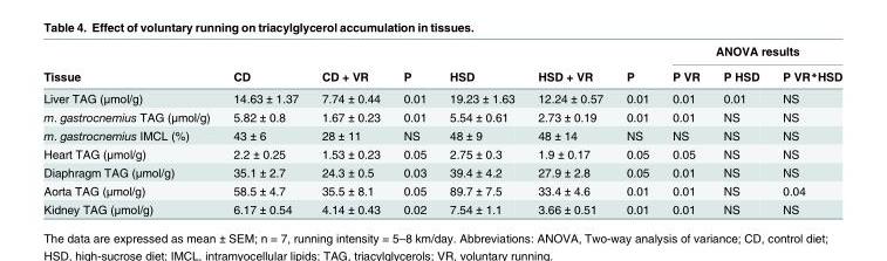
<table><thead><tr><td rowspan="2">Tissue</td><td rowspan="2">CD</td><td rowspan="2">CD + VR</td><td rowspan="2">P</td><td rowspan="2">HSD</td><td rowspan="2">HSD + VR</td><td rowspan="2">P</td><td colspan="3">ANOVA results</td></tr><tr><td>P VR</td><td>P HSD</td><td>P VR*HSD</td></tr></thead><tbody><tr><td>Liver TAG (µmol/g)</td><td>14.63 ± 1.37</td><td>7.74 ± 0.44</td><td>0.01</td><td>19.23 ± 1.63</td><td>12.24 ± 0.57</td><td>0.01</td><td>0.01</td><td>0.01</td><td>NS</td></tr><tr><td>m. gastrocnemius TAG (µmol/g)</td><td>5.82 ± 0.8</td><td>1.67 ± 0.23</td><td>0.01</td><td>5.54 ± 0.61</td><td>2.73 ± 0.19</td><td>0.01</td><td>0.01</td><td>NS</td><td>NS</td></tr><tr><td>m. gastrocnemius IMCL (%)</td><td>43 ± 6</td><td>28 ± 11</td><td>NS</td><td>48 ± 9</td><td>48 ± 14</td><td>NS</td><td>NS</td><td>NS</td><td>NS</td></tr><tr><td>Heart TAG (µmol/g)</td><td>2.2 ± 0.25</td><td>1.53 ± 0.23</td><td>0.05</td><td>2.75 ± 0.3</td><td>1.9 ± 0.17</td><td>0.05</td><td>0.05</td><td>NS</td><td>NS</td></tr><tr><td>Diaphragm TAG (µmol/g)</td><td>35.1 ± 2.7</td><td>24.3 ± 0.5</td><td>0.03</td><td>39.4 ± 4.2</td><td>27.9 ± 2.8</td><td>0.05</td><td>0.01</td><td>NS</td><td>NS</td></tr><tr><td>Aorta TAG (µmol/g)</td><td>58.5 ± 4.7</td><td>35.5 ± 8.1</td><td>0.05</td><td>89.7 ± 7.5</td><td>33.4 ± 4.6</td><td>0.01</td><td>0.01</td><td>NS</td><td>0.04</td></tr><tr><td>Kidney TAG (µmol/g)</td><td>6.17 ± 0.54</td><td>4.14 ± 0.43</td><td>0.02</td><td>7.54 ± 1.1</td><td>3.66 ± 0.51</td><td>0.01</td><td>0.01</td><td>NS</td><td>NS</td></tr></tbody></table>